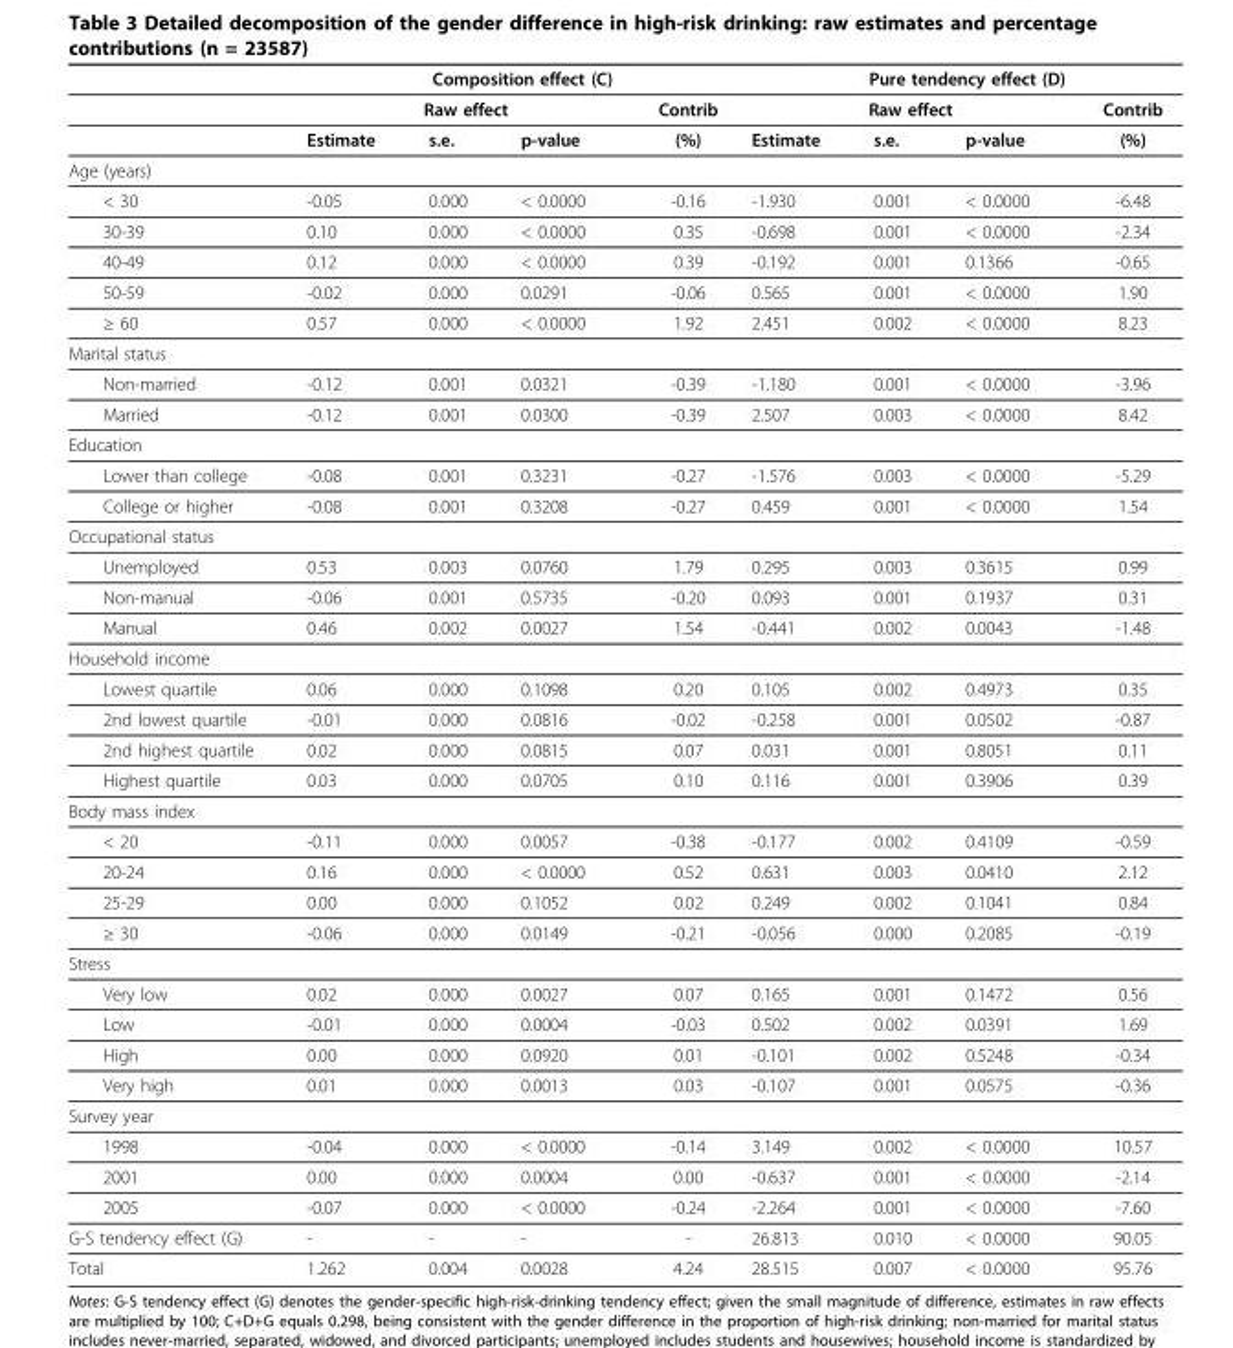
<table><thead><tr><td rowspan="3"></td><td colspan="4">Composition effect (C)</td><td colspan="4">Pure tendency effect (D)</td></tr><tr><td colspan="3">Raw effect</td><td rowspan="2">Contrib (%)</td><td colspan="3">Raw effect</td><td rowspan="2">Contrib (%)</td></tr><tr><td>Estimate</td><td>s.e.</td><td>p-value</td><td>Estimate</td><td>s.e.</td><td>p-value</td></tr></thead><tbody><tr><td colspan="9">Age (years)</td></tr><tr><td>&lt; 30</td><td>-0.05</td><td>0.000</td><td>&lt; 0.0000</td><td>-0.16</td><td>-1.930</td><td>0.001</td><td>&lt; 0.0000</td><td>-6.48</td></tr><tr><td>30-39</td><td>0.10</td><td>0.000</td><td>&lt; 0.0000</td><td>0.35</td><td>-0.698</td><td>0.001</td><td>&lt; 0.0000</td><td>-2.34</td></tr><tr><td>40-49</td><td>0.12</td><td>0.000</td><td>&lt; 0.0000</td><td>0.39</td><td>-0.192</td><td>0.001</td><td>0.1366</td><td>-0.65</td></tr><tr><td>50-59</td><td>-0.02</td><td>0.000</td><td>0.0291</td><td>-0.06</td><td>0.565</td><td>0.001</td><td>&lt; 0.0000</td><td>1.90</td></tr><tr><td>≥ 60</td><td>0.57</td><td>0.000</td><td>&lt; 0.0000</td><td>1.92</td><td>2.451</td><td>0.002</td><td>&lt; 0.0000</td><td>8.23</td></tr><tr><td colspan="9">Marital status</td></tr><tr><td>Non-married</td><td>-0.12</td><td>0.001</td><td>0.0321</td><td>-0.39</td><td>-1.180</td><td>0.001</td><td>&lt; 0.0000</td><td>-3.96</td></tr><tr><td>Married</td><td>-0.12</td><td>0.001</td><td>0.0300</td><td>-0.39</td><td>2.507</td><td>0.003</td><td>&lt; 0.0000</td><td>8.42</td></tr><tr><td colspan="9">Education</td></tr><tr><td>Lower than college</td><td>-0.08</td><td>0.001</td><td>0.3231</td><td>-0.27</td><td>-1.576</td><td>0.003</td><td>&lt; 0.0000</td><td>-5.29</td></tr><tr><td>College or higher</td><td>-0.08</td><td>0.001</td><td>0.3208</td><td>-0.27</td><td>0.459</td><td>0.001</td><td>&lt; 0.0000</td><td>1.54</td></tr><tr><td colspan="9">Occupational status</td></tr><tr><td>Unemployed</td><td>0.53</td><td>0.003</td><td>0.0760</td><td>1.79</td><td>0.295</td><td>0.003</td><td>0.3615</td><td>0.99</td></tr><tr><td>Non-manual</td><td>-0.06</td><td>0.001</td><td>0.5735</td><td>-0.20</td><td>0.093</td><td>0.001</td><td>0.1937</td><td>0.31</td></tr><tr><td>Manual</td><td>0.46</td><td>0.002</td><td>0.0027</td><td>1.54</td><td>-0.441</td><td>0.002</td><td>0.0043</td><td>-1.48</td></tr><tr><td colspan="9">Household income</td></tr><tr><td>Lowest quartile</td><td>0.06</td><td>0.000</td><td>0.1098</td><td>0.20</td><td>0.105</td><td>0.002</td><td>0.4973</td><td>0.35</td></tr><tr><td>2nd lowest quartile</td><td>-0.01</td><td>0.000</td><td>0.0816</td><td>-0.02</td><td>-0.258</td><td>0.001</td><td>0.0502</td><td>-0.87</td></tr><tr><td>2nd highest quartile</td><td>0.02</td><td>0.000</td><td>0.0815</td><td>0.07</td><td>0.031</td><td>0.001</td><td>0.8051</td><td>0.11</td></tr><tr><td>Highest quartile</td><td>0.03</td><td>0.000</td><td>0.0705</td><td>0.10</td><td>0.116</td><td>0.001</td><td>0.3906</td><td>0.39</td></tr><tr><td colspan="9">Body mass index</td></tr><tr><td>&lt; 20</td><td>-0.11</td><td>0.000</td><td>0.0057</td><td>-0.38</td><td>-0.177</td><td>0.002</td><td>0.4109</td><td>-0.59</td></tr><tr><td>20-24</td><td>0.16</td><td>0.000</td><td>&lt; 0.0000</td><td>0.52</td><td>0.631</td><td>0.003</td><td>0.0410</td><td>2.12</td></tr><tr><td>25-29</td><td>0.00</td><td>0.000</td><td>0.1052</td><td>0.02</td><td>0.249</td><td>0.002</td><td>0.1041</td><td>0.84</td></tr><tr><td>≥ 30</td><td>-0.06</td><td>0.000</td><td>0.0149</td><td>-0.21</td><td>-0.056</td><td>0.000</td><td>0.2085</td><td>-0.19</td></tr><tr><td colspan="9">Stress</td></tr><tr><td>Very low</td><td>0.02</td><td>0.000</td><td>0.0027</td><td>0.07</td><td>0.165</td><td>0.001</td><td>0.1472</td><td>0.56</td></tr><tr><td>Low</td><td>-0.01</td><td>0.000</td><td>0.0004</td><td>-0.03</td><td>0.502</td><td>0.002</td><td>0.0391</td><td>1.69</td></tr><tr><td>High</td><td>0.00</td><td>0.000</td><td>0.0920</td><td>0.01</td><td>-0.101</td><td>0.002</td><td>0.5248</td><td>-0.34</td></tr><tr><td>Very high</td><td>0.01</td><td>0.000</td><td>0.0013</td><td>0.03</td><td>-0.107</td><td>0.001</td><td>0.0575</td><td>-0.36</td></tr><tr><td colspan="9">Survey year</td></tr><tr><td>1998</td><td>-0.04</td><td>0.000</td><td>&lt; 0.0000</td><td>-0.14</td><td>3.149</td><td>0.002</td><td>&lt; 0.0000</td><td>10.57</td></tr><tr><td>2001</td><td>0.00</td><td>0.000</td><td>0.0004</td><td>0.00</td><td>-0.637</td><td>0.001</td><td>&lt; 0.0000</td><td>-2.14</td></tr><tr><td>2005</td><td>-0.07</td><td>0.000</td><td>&lt; 0.0000</td><td>-0.24</td><td>-2.264</td><td>0.001</td><td>&lt; 0.0000</td><td>-7.60</td></tr><tr><td>G-S tendency effect (G)</td><td>-</td><td>-</td><td>-</td><td>-</td><td>26.813</td><td>0.010</td><td>&lt; 0.0000</td><td>90.05</td></tr><tr><td>Total</td><td>1.262</td><td>0.004</td><td>0.0028</td><td>4.24</td><td>28.515</td><td>0.007</td><td>&lt; 0.0000</td><td>95.76</td></tr></tbody></table>